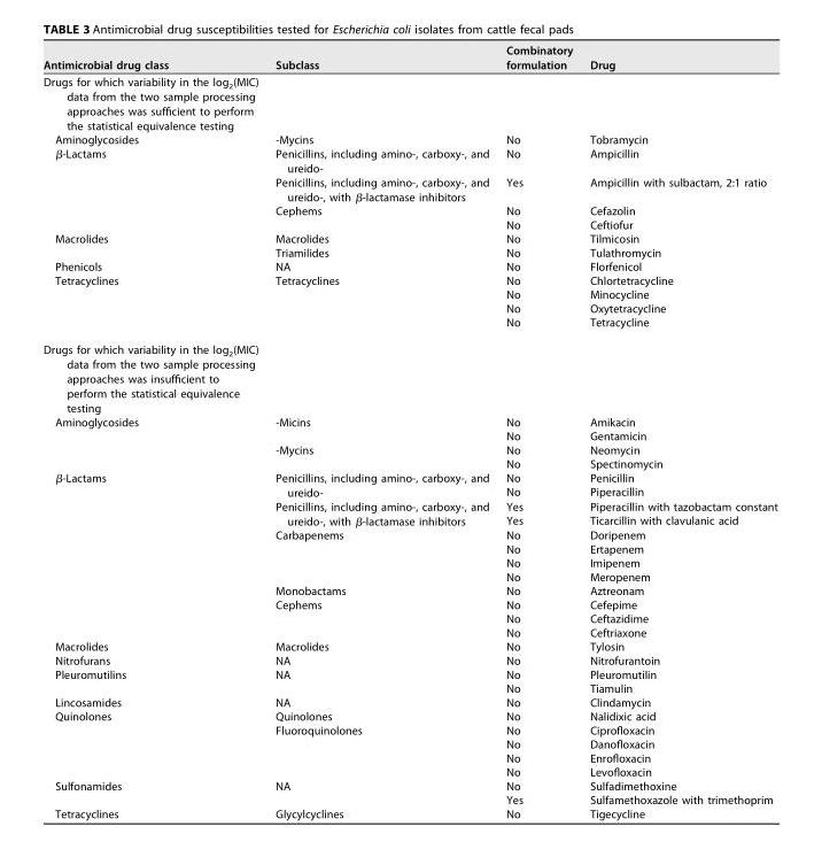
<table><thead><tr><td>Antimicrobial drug class</td><td>Subclass</td><td>Combinatory formulation</td><td>Drug</td></tr></thead><tbody><tr><td colspan="4">Drugs for which variability in the log<sub>2</sub>(MIC) data from the two sample processing approaches was sufficient to perform the statistical equivalence testing</td></tr><tr><td>Aminoglycosides</td><td>-Mycins</td><td>No</td><td>Tobramycin</td></tr><tr><td rowspan="4">β-Lactams</td><td>Penicillins, including amino-, carboxy-, and ureido-</td><td>No</td><td>Ampicillin</td></tr><tr><td>Penicillins, including amino-, carboxy-, and ureido-, with β-lactamase inhibitors</td><td>Yes</td><td>Ampicillin with sulbactam, 2:1 ratio</td></tr><tr><td>Cephems</td><td>No</td><td>Cefazolin</td></tr><tr><td></td><td>No</td><td>Ceftiofur</td></tr><tr><td rowspan="2">Macrolides</td><td>Macrolides</td><td>No</td><td>Tilmicosin</td></tr><tr><td>Triamilides</td><td>No</td><td>Tulathromycin</td></tr><tr><td>Phenicols</td><td>NA</td><td>No</td><td>Florfenicol</td></tr><tr><td rowspan="4">Tetracyclines</td><td>Tetracyclines</td><td>No</td><td>Chlortetracycline</td></tr><tr><td></td><td>No</td><td>Minocycline</td></tr><tr><td></td><td>No</td><td>Oxytetracycline</td></tr><tr><td></td><td>No</td><td>Tetracycline</td></tr><tr><td colspan="4">Drugs for which variability in the log<sub>2</sub>(MIC) data from the two sample processing approaches was insufficient to perform the statistical equivalence testing</td></tr><tr><td rowspan="4">Aminoglycosides</td><td>-Micins</td><td>No</td><td>Amikacin</td></tr><tr><td></td><td>No</td><td>Gentamicin</td></tr><tr><td>-Mycins</td><td>No</td><td>Neomycin</td></tr><tr><td></td><td>No</td><td>Spectinomycin</td></tr><tr><td rowspan="12">β-Lactams</td><td rowspan="2">Penicillins, including amino-, carboxy-, and ureido-</td><td>No</td><td>Penicillin</td></tr><tr><td>No</td><td>Piperacillin</td></tr><tr><td rowspan="2">Penicillins, including amino-, carboxy-, and ureido-, with β-lactamase inhibitors</td><td>Yes</td><td>Piperacillin with tazobactam constant</td></tr><tr><td>Yes</td><td>Ticarcillin with clavulanic acid</td></tr><tr><td>Carbapenems</td><td>No</td><td>Doripenem</td></tr><tr><td></td><td>No</td><td>Ertapenem</td></tr><tr><td></td><td>No</td><td>Imipenem</td></tr><tr><td></td><td>No</td><td>Meropenem</td></tr><tr><td>Monobactams</td><td>No</td><td>Aztreonam</td></tr><tr><td>Cephems</td><td>No</td><td>Cefepime</td></tr><tr><td></td><td>No</td><td>Ceftazidime</td></tr><tr><td></td><td>No</td><td>Ceftriaxone</td></tr><tr><td>Macrolides</td><td>Macrolides</td><td>No</td><td>Tylosin</td></tr><tr><td>Nitrofurans</td><td>NA</td><td>No</td><td>Nitrofurantoin</td></tr><tr><td rowspan="2">Pleuromutilins</td><td>NA</td><td>No</td><td>Pleuromutilin</td></tr><tr><td></td><td>No</td><td>Tiamulin</td></tr><tr><td>Lincosamides</td><td>NA</td><td>No</td><td>Clindamycin</td></tr><tr><td rowspan="5">Quinolones</td><td>Quinolones</td><td>No</td><td>Nalidixic acid</td></tr><tr><td>Fluoroquinolones</td><td>No</td><td>Ciprofloxacin</td></tr><tr><td></td><td>No</td><td>Danofloxacin</td></tr><tr><td></td><td>No</td><td>Enrofloxacin</td></tr><tr><td></td><td>No</td><td>Levofloxacin</td></tr><tr><td rowspan="2">Sulfonamides</td><td>NA</td><td>No</td><td>Sulfadimethoxine</td></tr><tr><td></td><td>Yes</td><td>Sulfamethoxazole with trimethoprim</td></tr><tr><td>Tetracyclines</td><td>Glycylcyclines</td><td>No</td><td>Tigecycline</td></tr></tbody></table>